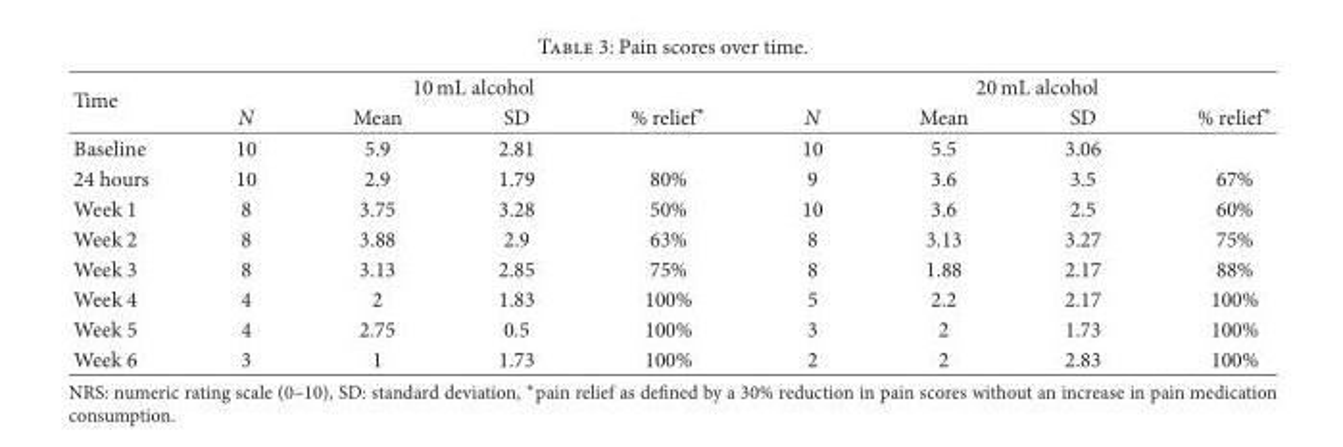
<table><thead><tr><td rowspan="2">Time</td><td colspan="4">10 mL alcohol</td><td colspan="4">20 mL alcohol</td></tr><tr><td>N</td><td>Mean</td><td>SD</td><td>% relief∗</td><td>N</td><td>Mean</td><td>SD</td><td>% relief∗</td></tr></thead><tbody><tr><td>Baseline</td><td>10</td><td>5.9</td><td>2.81</td><td></td><td>10</td><td>5.5</td><td>3.06</td><td></td></tr><tr><td>24 hours</td><td>10</td><td>2.9</td><td>1.79</td><td>80%</td><td>9</td><td>3.6</td><td>3.5</td><td>67%</td></tr><tr><td>Week 1</td><td>8</td><td>3.75</td><td>3.28</td><td>50%</td><td>10</td><td>3.6</td><td>2.5</td><td>60%</td></tr><tr><td>Week 2</td><td>8</td><td>3.88</td><td>2.9</td><td>63%</td><td>8</td><td>3.13</td><td>3.27</td><td>75%</td></tr><tr><td>Week 3</td><td>8</td><td>3.13</td><td>2.85</td><td>75%</td><td>8</td><td>1.88</td><td>2.17</td><td>88%</td></tr><tr><td>Week 4</td><td>4</td><td>2</td><td>1.83</td><td>100%</td><td>5</td><td>2.2</td><td>2.17</td><td>100%</td></tr><tr><td>Week 5</td><td>4</td><td>2.75</td><td>0.5</td><td>100%</td><td>3</td><td>2</td><td>1.73</td><td>100%</td></tr><tr><td>Week 6</td><td>3</td><td>1</td><td>1.73</td><td>100%</td><td>2</td><td>2</td><td>2.83</td><td>100%</td></tr></tbody></table>